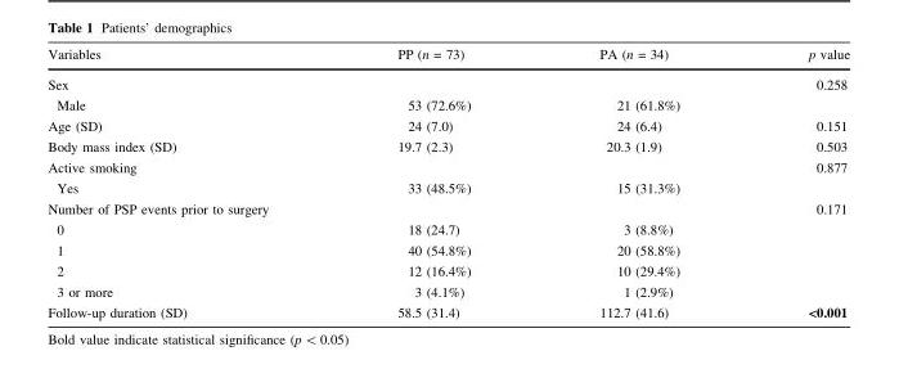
<table><thead><tr><td>Variables</td><td>PP (n = 73)</td><td>PA (n = 34)</td><td>p value</td></tr></thead><tbody><tr><td>Sex</td><td></td><td></td><td>0.258</td></tr><tr><td>Male</td><td>53 (72.6%)</td><td>21 (61.8%)</td><td></td></tr><tr><td>Age (SD)</td><td>24 (7.0)</td><td>24 (6.4)</td><td>0.151</td></tr><tr><td>Body mass index (SD)</td><td>19.7 (2.3)</td><td>20.3 (1.9)</td><td>0.503</td></tr><tr><td>Active smoking</td><td></td><td></td><td>0.877</td></tr><tr><td>Yes</td><td>33 (48.5%)</td><td>15 (31.3%)</td><td></td></tr><tr><td>Number of PSP events prior to surgery</td><td></td><td></td><td>0.171</td></tr><tr><td>0</td><td>18 (24.7)</td><td>3 (8.8%)</td><td></td></tr><tr><td>1</td><td>40 (54.8%)</td><td>20 (58.8%)</td><td></td></tr><tr><td>2</td><td>12 (16.4%)</td><td>10 (29.4%)</td><td></td></tr><tr><td>3 or more</td><td>3 (4.1%)</td><td>1 (2.9%)</td><td></td></tr><tr><td>Follow-up duration (SD)</td><td>58.5 (31.4)</td><td>112.7 (41.6)</td><td>&lt;0.001</td></tr></tbody></table>